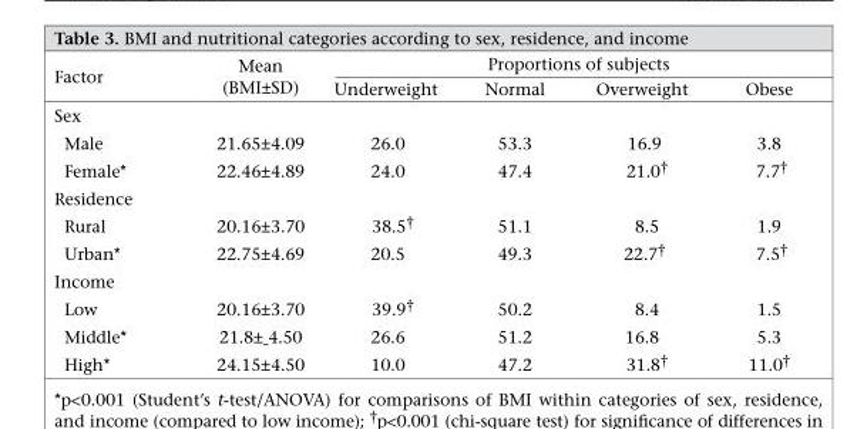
<table><thead><tr><td rowspan="2">Factor</td><td rowspan="2">Mean (BMI±SD)</td><td colspan="4">Proportions of subjects</td></tr><tr><td>Underweight</td><td>Normal</td><td>Overweight</td><td>Obese</td></tr></thead><tbody><tr><td colspan="6">Sex</td></tr><tr><td>Male</td><td>21.65±4.09</td><td>26.0</td><td>53.3</td><td>16.9</td><td>3.8</td></tr><tr><td>Female*</td><td>22.46±4.89</td><td>24.0</td><td>47.4</td><td>21.0†</td><td>7.7†</td></tr><tr><td colspan="6">Residence</td></tr><tr><td>Rural</td><td>20.16±3.70</td><td>38.5†</td><td>51.1</td><td>8.5</td><td>1.9</td></tr><tr><td>Urban*</td><td>22.75±4.69</td><td>20.5</td><td>49.3</td><td>22.7†</td><td>7.5†</td></tr><tr><td colspan="6">Income</td></tr><tr><td>Low</td><td>20.16±3.70</td><td>39.9†</td><td>50.2</td><td>8.4</td><td>1.5</td></tr><tr><td>Middle*</td><td>21.8± 4.50</td><td>26.6</td><td>51.2</td><td>16.8</td><td>5.3</td></tr><tr><td>High*</td><td>24.15±4.50</td><td>10.0</td><td>47.2</td><td>31.8†</td><td>11.0†</td></tr></tbody></table>